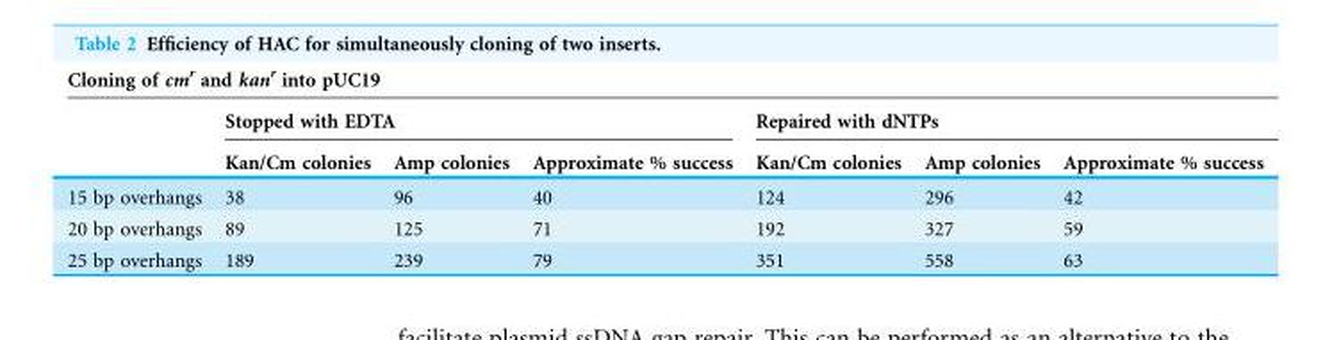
<table><thead><tr><td colspan="7">Cloning of cm<sup>r</sup> and kan<sup>r</sup> into pUC19</td></tr><tr><td rowspan="2"></td><td colspan="3">Stopped with EDTA</td><td colspan="3">Repaired with dNTPs</td></tr><tr><td>Kan/Cm colonies</td><td>Amp colonies</td><td>Approximate % success</td><td>Kan/Cm colonies</td><td>Amp colonies</td><td>Approximate % success</td></tr></thead><tbody><tr><td>15 bp overhangs</td><td>38</td><td>96</td><td>40</td><td>124</td><td>296</td><td>42</td></tr><tr><td>20 bp overhangs</td><td>89</td><td>125</td><td>71</td><td>192</td><td>327</td><td>59</td></tr><tr><td>25 bp overhangs</td><td>189</td><td>239</td><td>79</td><td>351</td><td>558</td><td>63</td></tr></tbody></table>